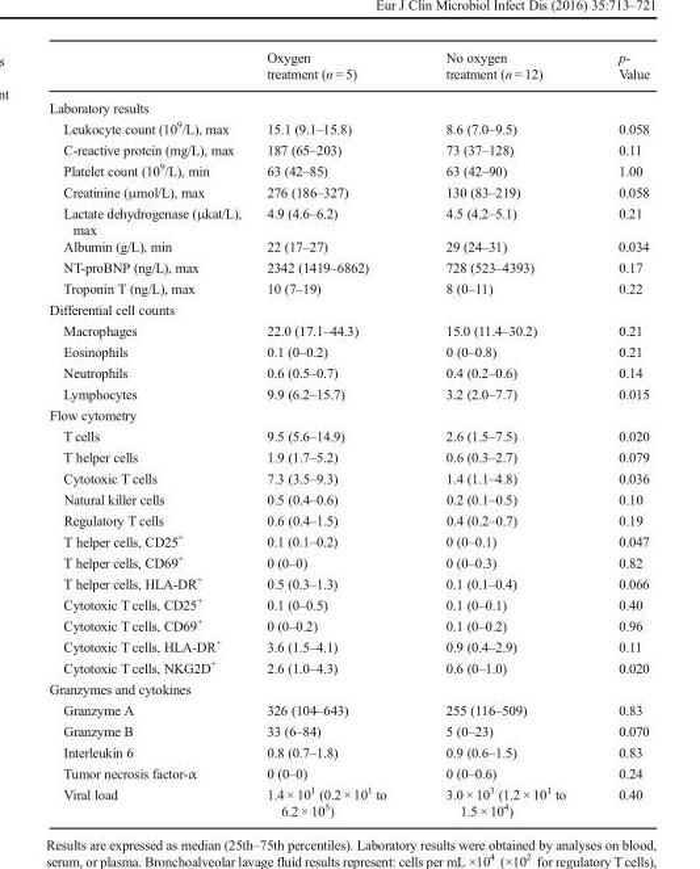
<table><thead><tr><td></td><td>Oxygen treatment (n = 5)</td><td>No oxygen treatment (n = 12)</td><td>p- Value</td></tr></thead><tbody><tr><td colspan="4">Laboratory results</td></tr><tr><td>Leukocyte count (10<sup>9</sup>/L), max</td><td>15.1 (9.1–15.8)</td><td>8.6 (7.0–9.5)</td><td>0.058</td></tr><tr><td>C-reactive protein (mg/L), max</td><td>187 (65–203)</td><td>73 (37–128)</td><td>0.11</td></tr><tr><td>Platelet count (10<sup>9</sup>/L), min</td><td>63 (42–85)</td><td>63 (42–90)</td><td>1.00</td></tr><tr><td>Creatinine (μmol/L), max</td><td>276 (186–327)</td><td>130 (83–219)</td><td>0.058</td></tr><tr><td>Lactate dehydrogenase (μkat/L), max</td><td>4.9 (4.6–6.2)</td><td>4.5 (4.2–5.1)</td><td>0.21</td></tr><tr><td>Albumin (g/L), min</td><td>22 (17–27)</td><td>29 (24–31)</td><td>0.034</td></tr><tr><td>NT-proBNP (ng/L), max</td><td>2342 (1419–6862)</td><td>728 (523–4393)</td><td>0.17</td></tr><tr><td>Troponin T (ng/L), max</td><td>10 (7–19)</td><td>8 (0–11)</td><td>0.22</td></tr><tr><td colspan="4">Differential cell counts</td></tr><tr><td>Macrophages</td><td>22.0 (17.1–44.3)</td><td>15.0 (11.4–30.2)</td><td>0.21</td></tr><tr><td>Eosinophils</td><td>0.1 (0–0.2)</td><td>0 (0–0.8)</td><td>0.21</td></tr><tr><td>Neutrophils</td><td>0.6 (0.5–0.7)</td><td>0.4 (0.2–0.6)</td><td>0.14</td></tr><tr><td>Lymphocytes</td><td>9.9 (6.2–15.7)</td><td>3.2 (2.0–7.7)</td><td>0.015</td></tr><tr><td colspan="4">Flow cytometry</td></tr><tr><td>T cells</td><td>9.5 (5.6–14.9)</td><td>2.6 (1.5–7.5)</td><td>0.020</td></tr><tr><td>T helper cells</td><td>1.9 (1.7–5.2)</td><td>0.6 (0.3–2.7)</td><td>0.079</td></tr><tr><td>Cytotoxic T cells</td><td>7.3 (3.5–9.3)</td><td>1.4 (1.1–4.8)</td><td>0.036</td></tr><tr><td>Natural killer cells</td><td>0.5 (0.4–0.6)</td><td>0.2 (0.1–0.5)</td><td>0.10</td></tr><tr><td>Regulatory T cells</td><td>0.6 (0.4–1.5)</td><td>0.4 (0.2–0.7)</td><td>0.19</td></tr><tr><td>T helper cells, CD25<sup>+</sup></td><td>0.1 (0.1–0.2)</td><td>0 (0–0.1)</td><td>0.047</td></tr><tr><td>T helper cells, CD69<sup>+</sup></td><td>0 (0–0)</td><td>0 (0–0.3)</td><td>0.82</td></tr><tr><td>T helper cells, HLA-DR<sup>+</sup></td><td>0.5 (0.3–1.3)</td><td>0.1 (0.1–0.4)</td><td>0.066</td></tr><tr><td>Cytotoxic T cells, CD25<sup>+</sup></td><td>0.1 (0–0.5)</td><td>0.1 (0–0.1)</td><td>0.40</td></tr><tr><td>Cytotoxic T cells, CD69<sup>+</sup></td><td>0 (0–0.2)</td><td>0.1 (0–0.2)</td><td>0.96</td></tr><tr><td>Cytotoxic T cells, HLA-DR<sup>+</sup></td><td>3.6 (1.5–4.1)</td><td>0.9 (0.4–2.9)</td><td>0.11</td></tr><tr><td>Cytotoxic T cells, NKG2D<sup>+</sup></td><td>2.6 (1.0–4.3)</td><td>0.6 (0–1.0)</td><td>0.020</td></tr><tr><td colspan="4">Granzymes and cytokines</td></tr><tr><td>Granzyme A</td><td>326 (104–643)</td><td>255 (116–509)</td><td>0.83</td></tr><tr><td>Granzyme B</td><td>33 (6–84)</td><td>5 (0–23)</td><td>0.070</td></tr><tr><td>Interleukin 6</td><td>0.8 (0.7–1.8)</td><td>0.9 (0.6–1.5)</td><td>0.83</td></tr><tr><td>Tumor necrosis factor-α</td><td>0 (0–0)</td><td>0 (0–0.6)</td><td>0.24</td></tr><tr><td>Viral load</td><td>1.4 × 10<sup>1</sup> (0.2 × 10<sup>1</sup> to 6.2 × 10<sup>5</sup>)</td><td>3.0 × 10<sup>3</sup> (1.2 × 10<sup>1</sup> to 1.5 × 10<sup>4</sup>)</td><td>0.40</td></tr></tbody></table>